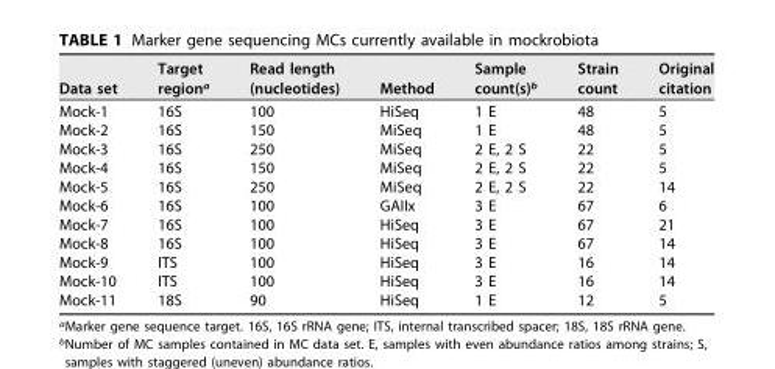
<table><thead><tr><td>Data set</td><td>Target region<sup>a</sup></td><td>Read length (nucleotides)</td><td>Method</td><td>Sample count(s)<sup>b</sup></td><td>Strain count</td><td>Original citation</td></tr></thead><tbody><tr><td>Mock-1</td><td>16S</td><td>100</td><td>HiSeq</td><td>1 E</td><td>48</td><td>5</td></tr><tr><td>Mock-2</td><td>16S</td><td>150</td><td>MiSeq</td><td>1 E</td><td>48</td><td>5</td></tr><tr><td>Mock-3</td><td>16S</td><td>250</td><td>MiSeq</td><td>2 E, 2 S</td><td>22</td><td>5</td></tr><tr><td>Mock-4</td><td>16S</td><td>150</td><td>MiSeq</td><td>2 E, 2 S</td><td>22</td><td>5</td></tr><tr><td>Mock-5</td><td>16S</td><td>250</td><td>MiSeq</td><td>2 E, 2 S</td><td>22</td><td>14</td></tr><tr><td>Mock-6</td><td>16S</td><td>100</td><td>GAIIx</td><td>3 E</td><td>67</td><td>6</td></tr><tr><td>Mock-7</td><td>16S</td><td>100</td><td>HiSeq</td><td>3 E</td><td>67</td><td>21</td></tr><tr><td>Mock-8</td><td>16S</td><td>100</td><td>HiSeq</td><td>3 E</td><td>67</td><td>14</td></tr><tr><td>Mock-9</td><td>ITS</td><td>100</td><td>HiSeq</td><td>3 E</td><td>16</td><td>14</td></tr><tr><td>Mock-10</td><td>ITS</td><td>100</td><td>HiSeq</td><td>3 E</td><td>16</td><td>14</td></tr><tr><td>Mock-11</td><td>18S</td><td>90</td><td>HiSeq</td><td>1 E</td><td>12</td><td>5</td></tr></tbody></table>